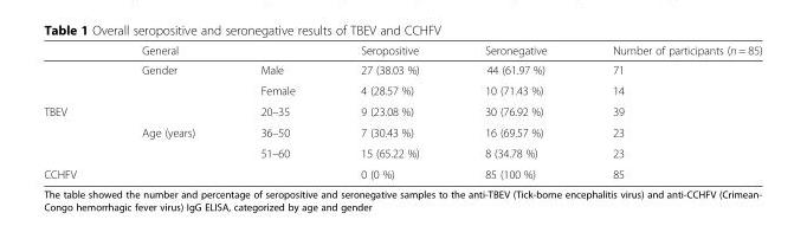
<table><thead><tr><td></td><td>General</td><td></td><td>Seropositive</td><td>Seronegative</td><td>Number of participants (n = 85)</td></tr></thead><tbody><tr><td></td><td>Gender</td><td>Male</td><td>27 (38.03 %)</td><td>44 (61.97 %)</td><td>71</td></tr><tr><td></td><td></td><td>Female</td><td>4 (28.57 %)</td><td>10 (71.43 %)</td><td>14</td></tr><tr><td rowspan="3">TBEV</td><td></td><td>20–35</td><td>9 (23.08 %)</td><td>30 (76.92 %)</td><td>39</td></tr><tr><td>Age (years)</td><td>36–50</td><td>7 (30.43 %)</td><td>16 (69.57 %)</td><td>23</td></tr><tr><td></td><td>51–60</td><td>15 (65.22 %)</td><td>8 (34.78 %)</td><td>23</td></tr><tr><td>CCHFV</td><td></td><td></td><td>0 (0 %)</td><td>85 (100 %)</td><td>85</td></tr></tbody></table>